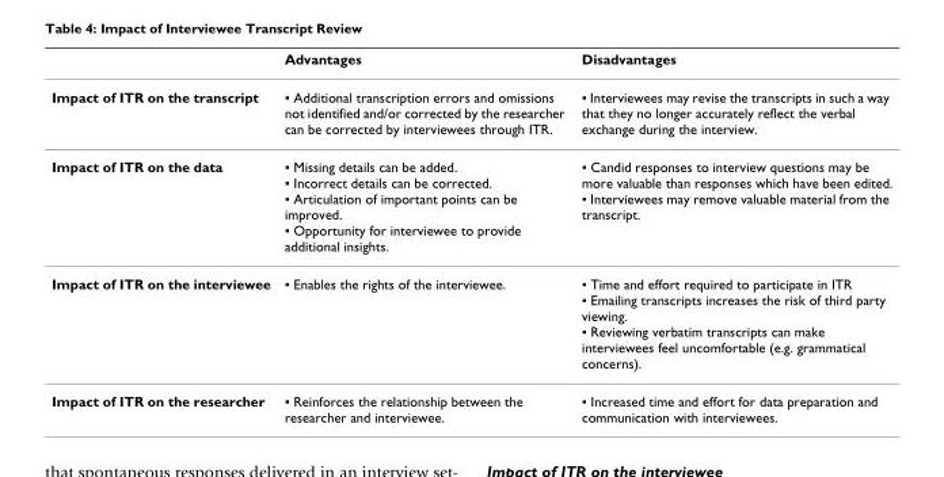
<table><thead><tr><td></td><td>Advantages</td><td>Disadvantages</td></tr></thead><tbody><tr><td>Impact of ITR on the transcript</td><td>▪ Additional transcription errors and omissions not identified and/or corrected by the researcher can be corrected by interviewees through ITR.</td><td>▪ Interviewees may revise the transcripts in such a way that they no longer accurately reflect the verbal exchange during the interview.</td></tr><tr><td>Impact of ITR on the data</td><td>▪ Missing details can be added. ▪ Incorrect details can be corrected. ▪ Articulation of important points can be improved. ▪ Opportunity for interviewee to provide additional insights.</td><td>▪ Candid responses to interview questions may be more valuable than responses which have been edited. ▪ Interviewees may remove valuable material from the transcript.</td></tr><tr><td>Impact of ITR on the interviewee</td><td>▪ Enables the rights of the interviewee.</td><td>▪ Time and effort required to participate in ITR ▪ Emailing transcripts increases the risk of third party viewing. ▪ Reviewing verbatim transcripts can make interviewees feel uncomfortable (e.g. grammatical concerns).</td></tr><tr><td>Impact of ITR on the researcher</td><td>▪ Reinforces the relationship between the researcher and interviewee.</td><td>▪ Increased time and effort for data preparation and communication with interviewees.</td></tr></tbody></table>